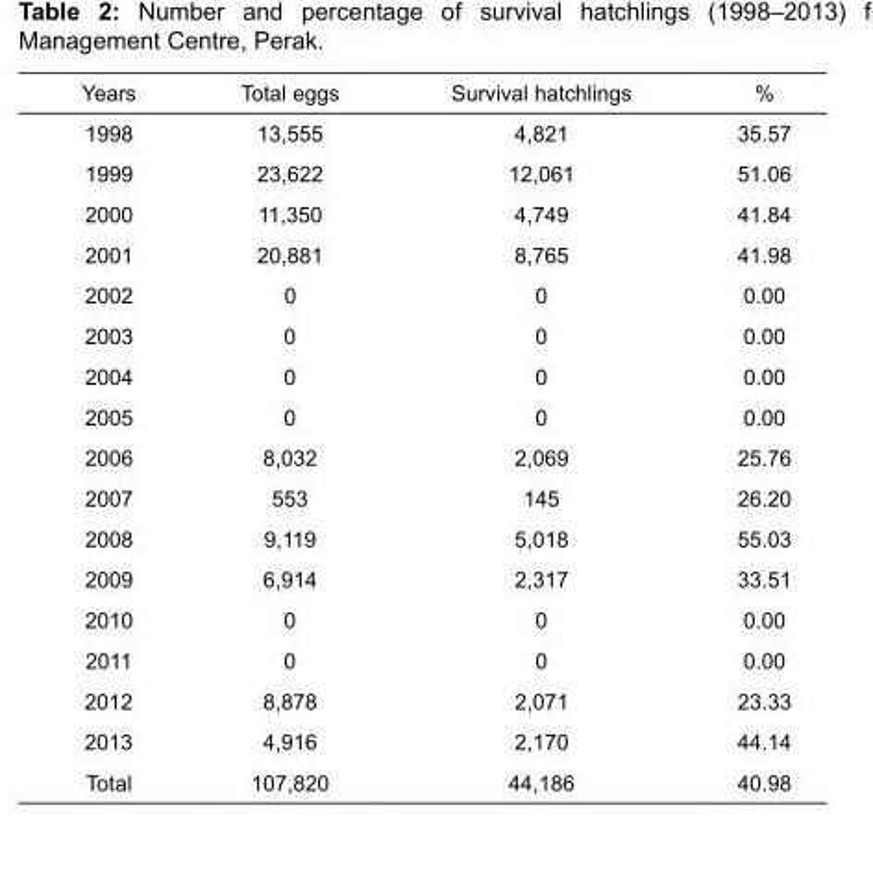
<table><thead><tr><td>Years</td><td>Total eggs</td><td>Survival hatchlings</td><td>%</td></tr></thead><tbody><tr><td>1998</td><td>13,555</td><td>4,821</td><td>35.57</td></tr><tr><td>1999</td><td>23,622</td><td>12,061</td><td>51.06</td></tr><tr><td>2000</td><td>11,350</td><td>4,749</td><td>41.84</td></tr><tr><td>2001</td><td>20,881</td><td>8,765</td><td>41.98</td></tr><tr><td>2002</td><td>0</td><td>0</td><td>0.00</td></tr><tr><td>2003</td><td>0</td><td>0</td><td>0.00</td></tr><tr><td>2004</td><td>0</td><td>0</td><td>0.00</td></tr><tr><td>2005</td><td>0</td><td>0</td><td>0.00</td></tr><tr><td>2006</td><td>8,032</td><td>2,069</td><td>25.76</td></tr><tr><td>2007</td><td>553</td><td>145</td><td>26.20</td></tr><tr><td>2008</td><td>9,119</td><td>5,018</td><td>55.03</td></tr><tr><td>2009</td><td>6,914</td><td>2,317</td><td>33.51</td></tr><tr><td>2010</td><td>0</td><td>0</td><td>0.00</td></tr><tr><td>2011</td><td>0</td><td>0</td><td>0.00</td></tr><tr><td>2012</td><td>8,878</td><td>2,071</td><td>23.33</td></tr><tr><td>2013</td><td>4,916</td><td>2,170</td><td>44.14</td></tr><tr><td>Total</td><td>107,820</td><td>44,186</td><td>40.98</td></tr></tbody></table>